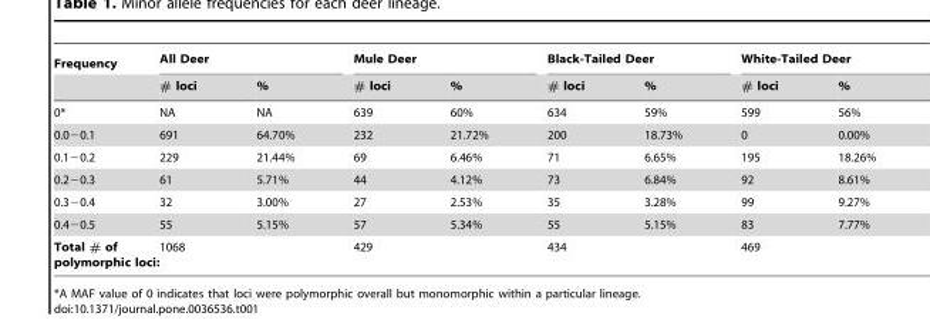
<table><thead><tr><td rowspan="2">Frequency</td><td colspan="2">All Deer</td><td colspan="2">Mule Deer</td><td colspan="2">Black-Tailed Deer</td><td colspan="2">White-Tailed Deer</td></tr><tr><td># loci</td><td>%</td><td># loci</td><td>%</td><td># loci</td><td>%</td><td># loci</td><td>%</td></tr></thead><tbody><tr><td>0*</td><td>NA</td><td>NA</td><td>639</td><td>60%</td><td>634</td><td>59%</td><td>599</td><td>56%</td></tr><tr><td>0.0−0.1</td><td>691</td><td>64.70%</td><td>232</td><td>21.72%</td><td>200</td><td>18.73%</td><td>0</td><td>0.00%</td></tr><tr><td>0.1−0.2</td><td>229</td><td>21.44%</td><td>69</td><td>6.46%</td><td>71</td><td>6.65%</td><td>195</td><td>18.26%</td></tr><tr><td>0.2−0.3</td><td>61</td><td>5.71%</td><td>44</td><td>4.12%</td><td>73</td><td>6.84%</td><td>92</td><td>8.61%</td></tr><tr><td>0.3−0.4</td><td>32</td><td>3.00%</td><td>27</td><td>2.53%</td><td>35</td><td>3.28%</td><td>99</td><td>9.27%</td></tr><tr><td>0.4−0.5</td><td>55</td><td>5.15%</td><td>57</td><td>5.34%</td><td>55</td><td>5.15%</td><td>83</td><td>7.77%</td></tr><tr><td>Total # of polymorphic loci:</td><td>1068</td><td></td><td>429</td><td></td><td>434</td><td></td><td>469</td><td></td></tr></tbody></table>